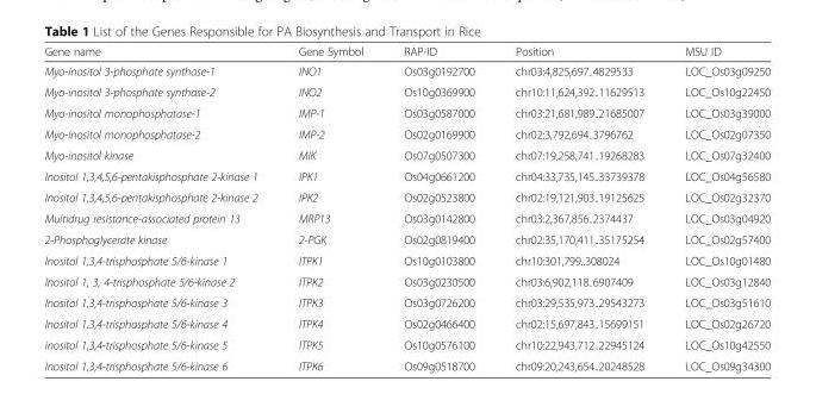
<table><thead><tr><td>Gene name</td><td>Gene Symbol</td><td>RAP-ID</td><td>Position</td><td>MSU ID</td></tr></thead><tbody><tr><td>Myo-inositol 3-phosphate synthase-1</td><td>INO1</td><td>Os03g0192700</td><td>chr03:4,825,697..4829533</td><td>LOC_Os03g09250</td></tr><tr><td>Myo-inositol 3-phosphate synthase-2</td><td>INO2</td><td>Os10g0369900</td><td>chr10:11,624,392..11629513</td><td>LOC_Os10g22450</td></tr><tr><td>Myo-inositol monophosphatase-1</td><td>IMP-1</td><td>Os03g0587000</td><td>chr03:21,681,989..21685007</td><td>LOC_Os03g39000</td></tr><tr><td>Myo-inositol monophosphatase-2</td><td>IMP-2</td><td>Os02g0169900</td><td>chr02:3,792,694..3796762</td><td>LOC_Os02g07350</td></tr><tr><td>Myo-inositol kinase</td><td>MIK</td><td>Os07g0507300</td><td>chr07:19,258,741..19268283</td><td>LOC_Os07g32400</td></tr><tr><td>Inositol 1,3,4,5,6-pentakisphosphate 2-kinase 1</td><td>IPK1</td><td>Os04g0661200</td><td>chr04:33,735,145..33739378</td><td>LOC_Os04g56580</td></tr><tr><td>Inositol 1,3,4,5,6-pentakisphosphate 2-kinase 2</td><td>IPK2</td><td>Os02g0523800</td><td>chr02:19,121,903..19125625</td><td>LOC_Os02g32370</td></tr><tr><td>Multidrug resistance-associated protein 13</td><td>MRP13</td><td>Os03g0142800</td><td>chr03:2,367,856..2374437</td><td>LOC_Os03g04920</td></tr><tr><td>2-Phosphoglycerate kinase</td><td>2-PGK</td><td>Os02g0819400</td><td>chr02:35,170,411..35175254</td><td>LOC_Os02g57400</td></tr><tr><td>Inositol 1,3,4-trisphosphate 5/6-kinase 1</td><td>ITPK1</td><td>Os10g0103800</td><td>chr10:301,799..308024</td><td>LOC_Os10g01480</td></tr><tr><td>Inositol 1, 3, 4-trisphosphate 5/6-kinase 2</td><td>ITPK2</td><td>Os03g0230500</td><td>chr03:6,902,118..6907409</td><td>LOC_Os03g12840</td></tr><tr><td>Inositol 1,3,4-trisphosphate 5/6-kinase 3</td><td>ITPK3</td><td>Os03g0726200</td><td>chr03:29,535,973..29543273</td><td>LOC_Os03g51610</td></tr><tr><td>Inositol 1,3,4-trisphosphate 5/6-kinase 4</td><td>ITPK4</td><td>Os02g0466400</td><td>chr02:15,697,843..15699151</td><td>LOC_Os02g26720</td></tr><tr><td>inositol 1,3,4-trisphosphate 5/6-kinase 5</td><td>ITPK5</td><td>Os10g0576100</td><td>chr10:22,943,712..22945124</td><td>LOC_Os10g42550</td></tr><tr><td>Inositol 1,3,4-trisphosphate 5/6-kinase 6</td><td>ITPK6</td><td>Os09g0518700</td><td>chr09:20,243,654..20248528</td><td>LOC_Os09g34300</td></tr></tbody></table>